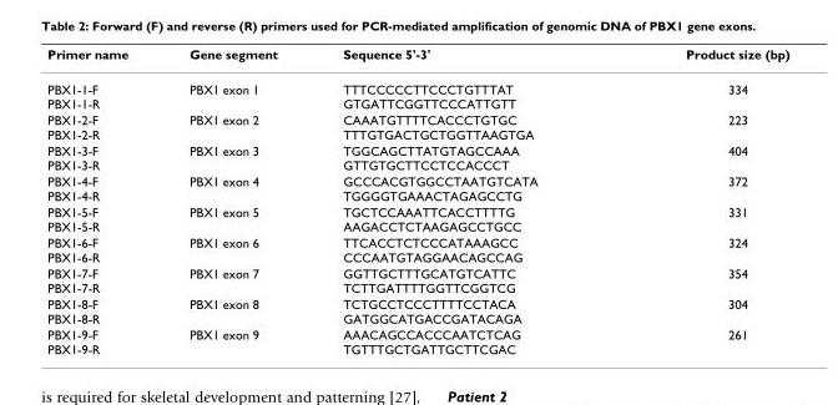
<table><thead><tr><td>Primer name</td><td>Gene segment</td><td>Sequence 5&#x27;-3&#x27;</td><td>Product size (bp)</td></tr></thead><tbody><tr><td>PBX1-1-F PBX1-1-R</td><td>PBX1 exon 1</td><td>TTTCCCCCTTCCCTGTTTAT GTGATTCGGTTCCCATTGTT</td><td>334</td></tr><tr><td>PBX1-2-F PBX1-2-R</td><td>PBX1 exon 2</td><td>CAAATGTTTTCACCCTGTGC TTTGTGACTGCTGGTTAAGTGA</td><td>223</td></tr><tr><td>PBX1-3-F PBX1-3-R</td><td>PBX1 exon 3</td><td>TGGCAGCTTATGTAGCCAAA GTTGTGCTTCCTCCACCCT</td><td>404</td></tr><tr><td>PBX1-4-F PBX1-4-R</td><td>PBX1 exon 4</td><td>GCCCACGTGGCCTAATGTCATA TGGGGTGAAACTAGAGCCTG</td><td>372</td></tr><tr><td>PBX1-5-F PBX1-5-R</td><td>PBX1 exon 5</td><td>TGCTCCAAATTCACCTTTTG AAGACCTCTAAGAGCCTGCC</td><td>331</td></tr><tr><td>PBX1-6-F PBX1-6-R</td><td>PBX1 exon 6</td><td>TTCACCTCTCCCATAAAGCC CCCAATGTAGGAACAGCCAG</td><td>324</td></tr><tr><td>PBX1-7-F PBX1-7-R</td><td>PBX1 exon 7</td><td>GGTTGCTTTGCATGTCATTC TCTTGATTTTGGTTCGGTCG</td><td>354</td></tr><tr><td>PBX1-8-F PBX1-8-R</td><td>PBX1 exon 8</td><td>TCTGCCTCCCTTTTCCTACA GATGGCATGACCGATACAGA</td><td>304</td></tr><tr><td>PBX1-9-F PBX1-9-R</td><td>PBX1 exon 9</td><td>AAACAGCCACCCAATCTCAG TGTTTGCTGATTGCTTCGAC</td><td>261</td></tr></tbody></table>